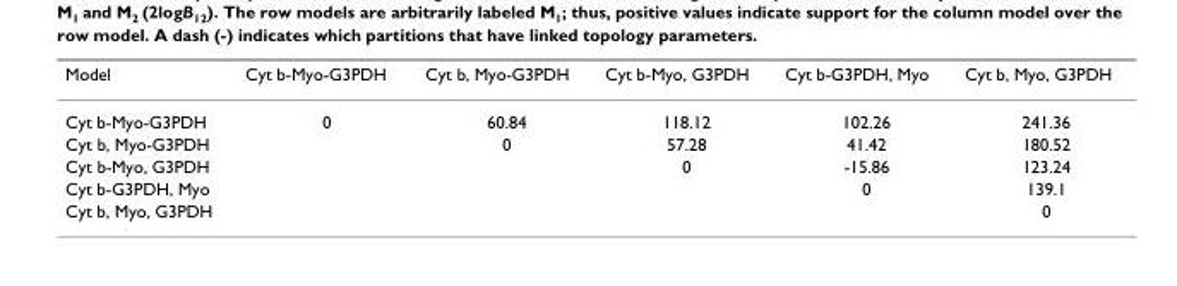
<table><thead><tr><td>Model</td><td>Cyt b-Myo-G3PDH</td><td>Cyt b, Myo-G3PDH</td><td>Cyt b-Myo, G3PDH</td><td>Cyt b-G3PDH, Myo</td><td>Cyt b, Myo, G3PDH</td></tr></thead><tbody><tr><td>Cyt b-Myo-G3PDH</td><td>0</td><td>60.84</td><td>118.12</td><td>102.26</td><td>241.36</td></tr><tr><td>Cyt b, Myo-G3PDH</td><td></td><td>0</td><td>57.28</td><td>41.42</td><td>180.52</td></tr><tr><td>Cyt b-Myo, G3PDH</td><td></td><td></td><td>0</td><td>-15.86</td><td>123.24</td></tr><tr><td>Cyt b-G3PDH, Myo</td><td></td><td></td><td></td><td>0</td><td>139.1</td></tr><tr><td>Cyt b, Myo, G3PDH</td><td></td><td></td><td></td><td></td><td>0</td></tr></tbody></table>